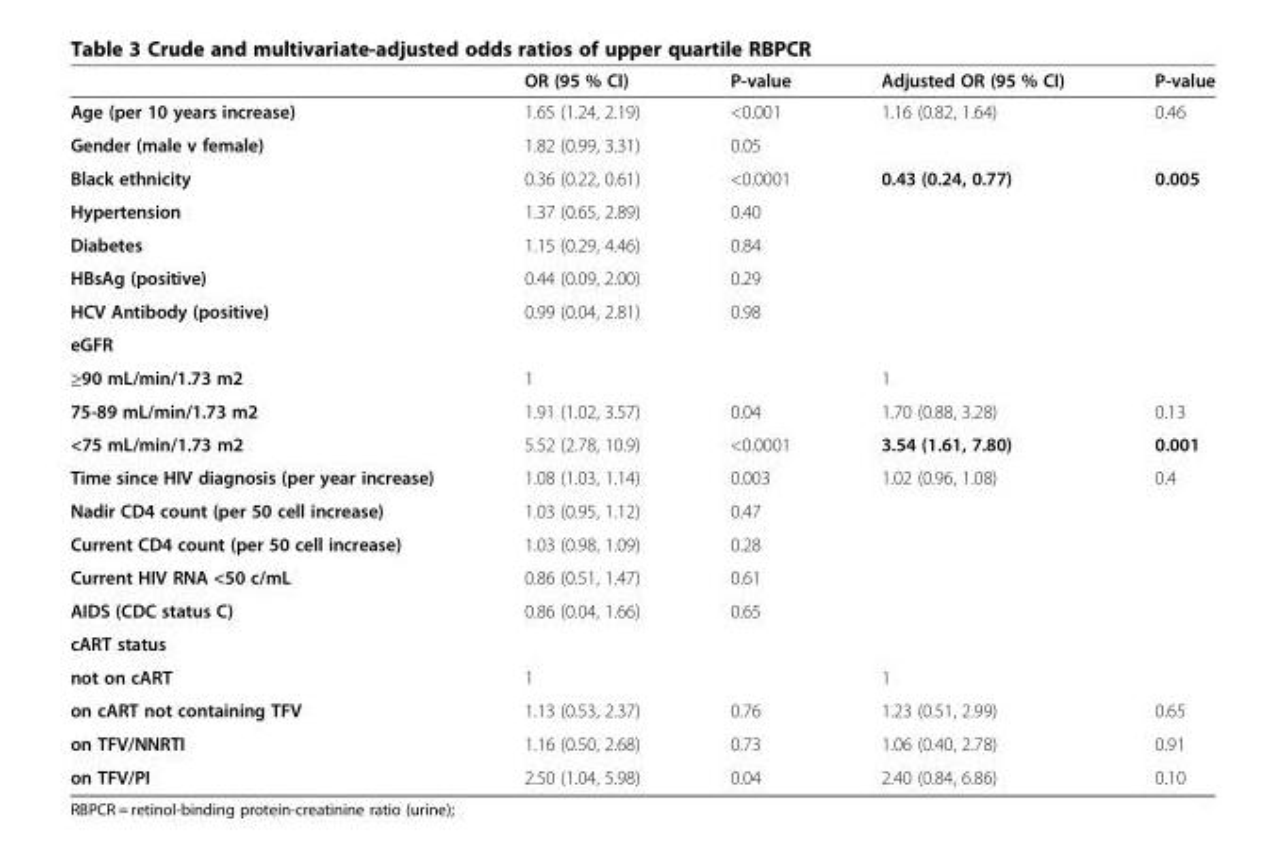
<table><thead><tr><td></td><td>OR (95 % CI)</td><td>P-value</td><td>Adjusted OR (95 % CI)</td><td>P-value</td></tr></thead><tbody><tr><td>Age (per 10 years increase)</td><td>1.65 (1.24, 2.19)</td><td>&lt;0.001</td><td>1.16 (0.82, 1.64)</td><td>0.46</td></tr><tr><td>Gender (male v female)</td><td>1.82 (0.99, 3.31)</td><td>0.05</td><td></td><td></td></tr><tr><td>Black ethnicity</td><td>0.36 (0.22, 0.61)</td><td>&lt;0.0001</td><td>0.43 (0.24, 0.77)</td><td>0.005</td></tr><tr><td>Hypertension</td><td>1.37 (0.65, 2.89)</td><td>0.40</td><td></td><td></td></tr><tr><td>Diabetes</td><td>1.15 (0.29, 4.46)</td><td>0.84</td><td></td><td></td></tr><tr><td>HBsAg (positive)</td><td>0.44 (0.09, 2.00)</td><td>0.29</td><td></td><td></td></tr><tr><td>HCV Antibody (positive)</td><td>0.99 (0.04, 2.81)</td><td>0.98</td><td></td><td></td></tr><tr><td colspan="5">eGFR</td></tr><tr><td>≥90 mL/min/1.73 m2</td><td>1</td><td></td><td>1</td><td></td></tr><tr><td>75-89 mL/min/1.73 m2</td><td>1.91 (1.02, 3.57)</td><td>0.04</td><td>1.70 (0.88, 3.28)</td><td>0.13</td></tr><tr><td>&lt;75 mL/min/1.73 m2</td><td>5.52 (2.78, 10.9)</td><td>&lt;0.0001</td><td>3.54 (1.61, 7.80)</td><td>0.001</td></tr><tr><td>Time since HIV diagnosis (per year increase)</td><td>1.08 (1.03, 1.14)</td><td>0.003</td><td>1.02 (0.96, 1.08)</td><td>0.4</td></tr><tr><td>Nadir CD4 count (per 50 cell increase)</td><td>1.03 (0.95, 1.12)</td><td>0.47</td><td></td><td></td></tr><tr><td>Current CD4 count (per 50 cell increase)</td><td>1.03 (0.98, 1.09)</td><td>0.28</td><td></td><td></td></tr><tr><td>Current HIV RNA &lt;50 c/mL</td><td>0.86 (0.51, 1.47)</td><td>0.61</td><td></td><td></td></tr><tr><td>AIDS (CDC status C)</td><td>0.86 (0.04, 1.66)</td><td>0.65</td><td></td><td></td></tr><tr><td colspan="5">cART status</td></tr><tr><td>not on cART</td><td>1</td><td></td><td>1</td><td></td></tr><tr><td>on cART not containing TFV</td><td>1.13 (0.53, 2.37)</td><td>0.76</td><td>1.23 (0.51, 2.99)</td><td>0.65</td></tr><tr><td>on TFV/NNRTI</td><td>1.16 (0.50, 2.68)</td><td>0.73</td><td>1.06 (0.40, 2.78)</td><td>0.91</td></tr><tr><td>on TFV/PI</td><td>2.50 (1.04, 5.98)</td><td>0.04</td><td>2.40 (0.84, 6.86)</td><td>0.10</td></tr></tbody></table>